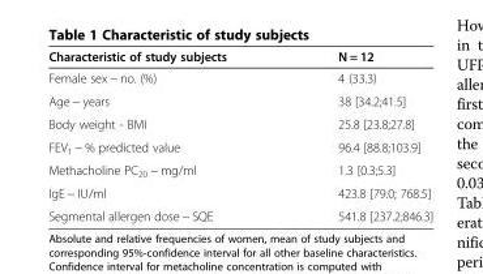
<table><thead><tr><td>Characteristic of study subjects</td><td>N = 12</td></tr></thead><tbody><tr><td>Female sex − no. (%)</td><td>4 (33.3)</td></tr><tr><td>Age − years</td><td>38 [34.2;41.5]</td></tr><tr><td>Body weight - BMI</td><td>25.8 [23.8;27.8]</td></tr><tr><td>FEV<sub>1</sub> − % predicted value</td><td>96.4 [88.8;103.9]</td></tr><tr><td>Methacholine PC<sub>20</sub> − mg/ml</td><td>1.3 [0.3;5.3]</td></tr><tr><td>IgE − IU/ml</td><td>423.8 [79.0; 768.5]</td></tr><tr><td>Segmental allergen dose − SQE</td><td>541.8 [237.2;846.3]</td></tr></tbody></table>